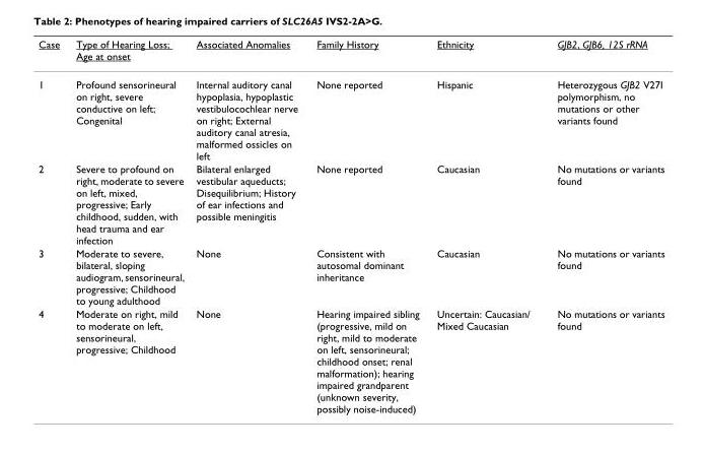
<table><thead><tr><td>Case</td><td>Type of Hearing Loss; Age at onset</td><td>Associated Anomalies</td><td>Family History</td><td>Ethnicity</td><td>GJB2, GJB6, 12S rRNA</td></tr></thead><tbody><tr><td>1</td><td>Profound sensorineural on right, severe conductive on left; Congenital</td><td>Internal auditory canal hypoplasia, hypoplastic vestibulocochlear nerve on right; External auditory canal atresia, malformed ossicles on left</td><td>None reported</td><td>Hispanic</td><td>Heterozygous GJB2 V27I polymorphism, no mutations or other variants found</td></tr><tr><td>2</td><td>Severe to profound on right, moderate to severe on left, mixed, progressive; Early childhood, sudden, with head trauma and ear infection</td><td>Bilateral enlarged vestibular aqueducts; Disequilibrium; History of ear infections and possible meningitis</td><td>None reported</td><td>Caucasian</td><td>No mutations or variants found</td></tr><tr><td>3</td><td>Moderate to severe, bilateral, sloping audiogram, sensorineural, progressive; Childhood to young adulthood</td><td>None</td><td>Consistent with autosomal dominant inheritance</td><td>Caucasian</td><td>No mutations or variants found</td></tr><tr><td>4</td><td>Moderate on right, mild to moderate on left, sensorineural, progressive; Childhood</td><td>None</td><td>Hearing impaired sibling (progressive, mild on right, mild to moderate on left, sensorineural; childhood onset; renal malformation); hearing impaired grandparent (unknown severity, possibly noise-induced)</td><td>Uncertain: Caucasian/ Mixed Caucasian</td><td>No mutations or variants found</td></tr></tbody></table>